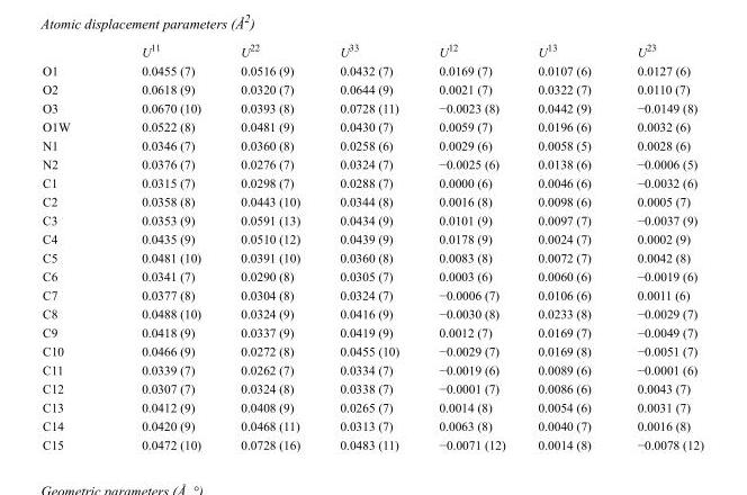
<table><thead><tr><td></td><td>U<sup>11</sup></td><td>U<sup>22</sup></td><td>U<sup>33</sup></td><td>U<sup>12</sup></td><td>U<sup>13</sup></td><td>U<sup>23</sup></td></tr></thead><tbody><tr><td>O1</td><td>0.0455 (7)</td><td>0.0516 (9)</td><td>0.0432 (7)</td><td>0.0169 (7)</td><td>0.0107 (6)</td><td>0.0127 (6)</td></tr><tr><td>O2</td><td>0.0618 (9)</td><td>0.0320 (7)</td><td>0.0644 (9)</td><td>0.0021 (7)</td><td>0.0322 (7)</td><td>0.0110 (7)</td></tr><tr><td>O3</td><td>0.0670 (10)</td><td>0.0393 (8)</td><td>0.0728 (11)</td><td>−0.0023 (8)</td><td>0.0442 (9)</td><td>−0.0149 (8)</td></tr><tr><td>O1W</td><td>0.0522 (8)</td><td>0.0481 (9)</td><td>0.0430 (7)</td><td>0.0059 (7)</td><td>0.0196 (6)</td><td>0.0032 (6)</td></tr><tr><td>N1</td><td>0.0346 (7)</td><td>0.0360 (8)</td><td>0.0258 (6)</td><td>0.0029 (6)</td><td>0.0058 (5)</td><td>0.0028 (6)</td></tr><tr><td>N2</td><td>0.0376 (7)</td><td>0.0276 (7)</td><td>0.0324 (7)</td><td>−0.0025 (6)</td><td>0.0138 (6)</td><td>−0.0006 (5)</td></tr><tr><td>C1</td><td>0.0315 (7)</td><td>0.0298 (7)</td><td>0.0288 (7)</td><td>0.0000 (6)</td><td>0.0046 (6)</td><td>−0.0032 (6)</td></tr><tr><td>C2</td><td>0.0358 (8)</td><td>0.0443 (10)</td><td>0.0344 (8)</td><td>0.0016 (8)</td><td>0.0098 (6)</td><td>0.0005 (7)</td></tr><tr><td>C3</td><td>0.0353 (9)</td><td>0.0591 (13)</td><td>0.0434 (9)</td><td>0.0101 (9)</td><td>0.0097 (7)</td><td>−0.0037 (9)</td></tr><tr><td>C4</td><td>0.0435 (9)</td><td>0.0510 (12)</td><td>0.0439 (9)</td><td>0.0178 (9)</td><td>0.0024 (7)</td><td>0.0002 (9)</td></tr><tr><td>C5</td><td>0.0481 (10)</td><td>0.0391 (10)</td><td>0.0360 (8)</td><td>0.0083 (8)</td><td>0.0072 (7)</td><td>0.0042 (8)</td></tr><tr><td>C6</td><td>0.0341 (7)</td><td>0.0290 (8)</td><td>0.0305 (7)</td><td>0.0003 (6)</td><td>0.0060 (6)</td><td>−0.0019 (6)</td></tr><tr><td>C7</td><td>0.0377 (8)</td><td>0.0304 (8)</td><td>0.0324 (7)</td><td>−0.0006 (7)</td><td>0.0106 (6)</td><td>0.0011 (6)</td></tr><tr><td>C8</td><td>0.0488 (10)</td><td>0.0324 (9)</td><td>0.0416 (9)</td><td>−0.0030 (8)</td><td>0.0233 (8)</td><td>−0.0029 (7)</td></tr><tr><td>C9</td><td>0.0418 (9)</td><td>0.0337 (9)</td><td>0.0419 (9)</td><td>0.0012 (7)</td><td>0.0169 (7)</td><td>−0.0049 (7)</td></tr><tr><td>C10</td><td>0.0466 (9)</td><td>0.0272 (8)</td><td>0.0455 (10)</td><td>−0.0029 (7)</td><td>0.0169 (8)</td><td>−0.0051 (7)</td></tr><tr><td>C11</td><td>0.0339 (7)</td><td>0.0262 (7)</td><td>0.0334 (7)</td><td>−0.0019 (6)</td><td>0.0089 (6)</td><td>−0.0001 (6)</td></tr><tr><td>C12</td><td>0.0307 (7)</td><td>0.0324 (8)</td><td>0.0338 (7)</td><td>−0.0001 (7)</td><td>0.0086 (6)</td><td>0.0043 (7)</td></tr><tr><td>C13</td><td>0.0412 (9)</td><td>0.0408 (9)</td><td>0.0265 (7)</td><td>0.0014 (8)</td><td>0.0054 (6)</td><td>0.0031 (7)</td></tr><tr><td>C14</td><td>0.0420 (9)</td><td>0.0468 (11)</td><td>0.0313 (7)</td><td>0.0063 (8)</td><td>0.0040 (7)</td><td>0.0016 (8)</td></tr><tr><td>C15</td><td>0.0472 (10)</td><td>0.0728 (16)</td><td>0.0483 (11)</td><td>−0.0071 (12)</td><td>0.0014 (8)</td><td>−0.0078 (12)</td></tr></tbody></table>